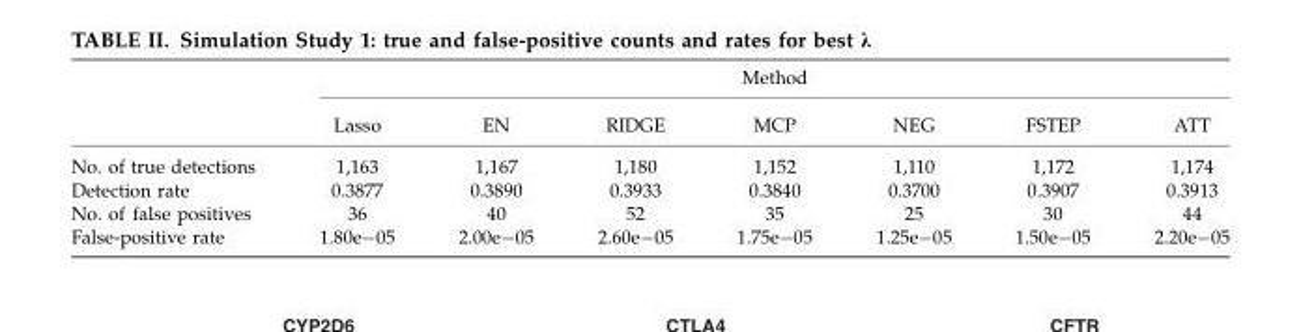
<table><thead><tr><td rowspan="2"></td><td colspan="7">Method</td></tr><tr><td>Lasso</td><td>EN</td><td>RIDGE</td><td>MCP</td><td>NEG</td><td>FSTEP</td><td>ATT</td></tr></thead><tbody><tr><td>No. of true detections</td><td>1,163</td><td>1,167</td><td>1,180</td><td>1,152</td><td>1,110</td><td>1,172</td><td>1,174</td></tr><tr><td>Detection rate</td><td>0.3877</td><td>0.3890</td><td>0.3933</td><td>0.3840</td><td>0.3700</td><td>0.3907</td><td>0.3913</td></tr><tr><td>No. of false positives</td><td>36</td><td>40</td><td>52</td><td>35</td><td>25</td><td>30</td><td>44</td></tr><tr><td>False-positive rate</td><td>1.80e−05</td><td>2.00e−05</td><td>2.60e−05</td><td>1.75e−05</td><td>1.25e−05</td><td>1.50e−05</td><td>2.20e−05</td></tr></tbody></table>